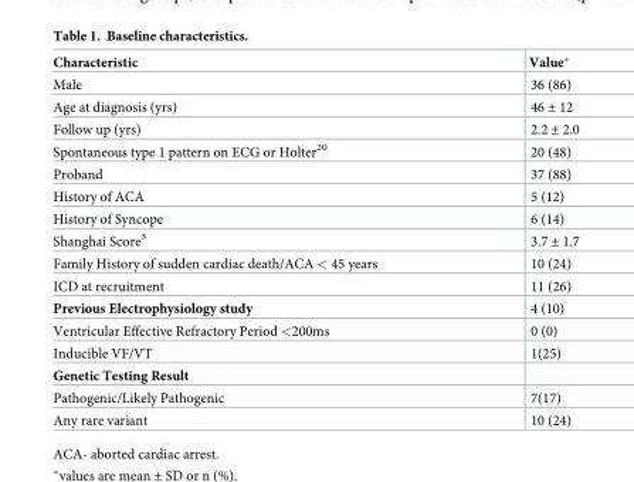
<table><thead><tr><td>Characteristic</td><td>Value*</td></tr></thead><tbody><tr><td>Male</td><td>36 (86)</td></tr><tr><td>Age at diagnosis (yrs)</td><td>46 ± 12</td></tr><tr><td>Follow up (yrs)</td><td>2.2 ± 2.0</td></tr><tr><td>Spontaneous type 1 pattern on ECG or Holter<sup>20</sup></td><td>20 (48)</td></tr><tr><td>Proband</td><td>37 (88)</td></tr><tr><td>History of ACA</td><td>5 (12)</td></tr><tr><td>History of Syncope</td><td>6 (14)</td></tr><tr><td>Shanghai Score<sup>3</sup></td><td>3.7 ± 1.7</td></tr><tr><td>Family History of sudden cardiac death/ACA &lt; 45 years</td><td>10 (24)</td></tr><tr><td>ICD at recruitment</td><td>11 (26)</td></tr><tr><td>Previous Electrophysiology study</td><td>4 (10)</td></tr><tr><td>Ventricular Effective Refractory Period &lt;200ms</td><td>0 (0)</td></tr><tr><td>Inducible VF/VT</td><td>1(25)</td></tr><tr><td colspan="2">Genetic Testing Result</td></tr><tr><td>Pathogenic/Likely Pathogenic</td><td>7(17)</td></tr><tr><td>Any rare variant</td><td>10 (24)</td></tr></tbody></table>